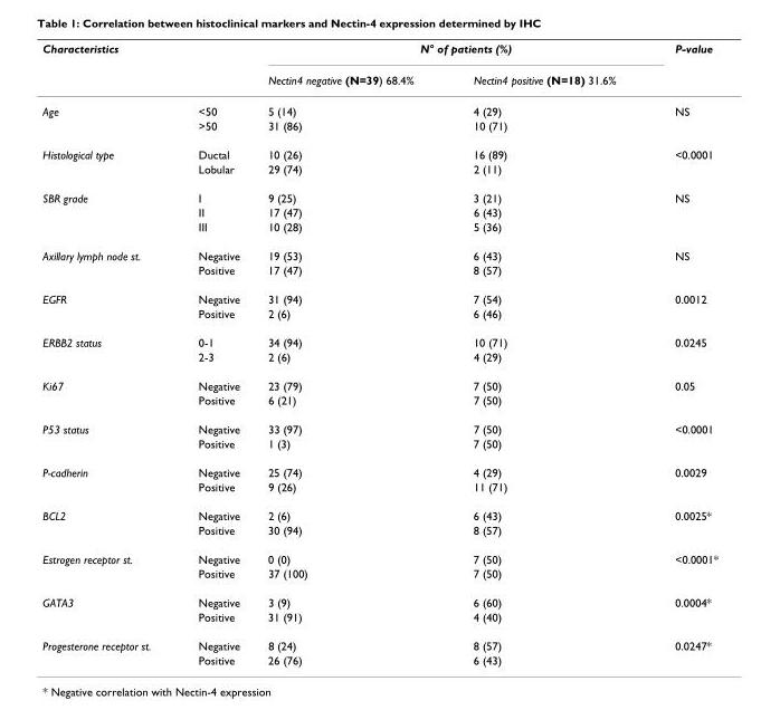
<table><thead><tr><td rowspan="2">Characteristics</td><td rowspan="2"></td><td colspan="2">N° of patients (%)</td><td rowspan="2">P-value</td></tr><tr><td>Nectin4 negative (N=39) 68.4%</td><td>Nectin4 positive (N=18) 31.6%</td></tr></thead><tbody><tr><td rowspan="2">Age</td><td>&lt;50</td><td>5 (14)</td><td>4 (29)</td><td>NS</td></tr><tr><td>&gt;50</td><td>31 (86)</td><td>10 (71)</td><td></td></tr><tr><td rowspan="2">Histological type</td><td>Ductal</td><td>10 (26)</td><td>16 (89)</td><td>&lt;0.0001</td></tr><tr><td>Lobular</td><td>29 (74)</td><td>2 (11)</td><td></td></tr><tr><td rowspan="3">SBR grade</td><td>I</td><td>9 (25)</td><td>3 (21)</td><td>NS</td></tr><tr><td>II</td><td>17 (47)</td><td>6 (43)</td><td></td></tr><tr><td>III</td><td>10 (28)</td><td>5 (36)</td><td></td></tr><tr><td rowspan="2">Axillary lymph node st.</td><td>Negative</td><td>19 (53)</td><td>6 (43)</td><td>NS</td></tr><tr><td>Positive</td><td>17 (47)</td><td>8 (57)</td><td></td></tr><tr><td rowspan="2">EGFR</td><td>Negative</td><td>31 (94)</td><td>7 (54)</td><td>0.0012</td></tr><tr><td>Positive</td><td>2 (6)</td><td>6 (46)</td><td></td></tr><tr><td rowspan="2">ERBB2 status</td><td>0-1</td><td>34 (94)</td><td>10 (71)</td><td>0.0245</td></tr><tr><td>2-3</td><td>2 (6)</td><td>4 (29)</td><td></td></tr><tr><td rowspan="2">Ki67</td><td>Negative</td><td>23 (79)</td><td>7 (50)</td><td>0.05</td></tr><tr><td>Positive</td><td>6 (21)</td><td>7 (50)</td><td></td></tr><tr><td rowspan="2">P53 status</td><td>Negative</td><td>33 (97)</td><td>7 (50)</td><td>&lt;0.0001</td></tr><tr><td>Positive</td><td>1 (3)</td><td>7 (50)</td><td></td></tr><tr><td rowspan="2">P-cadherin</td><td>Negative</td><td>25 (74)</td><td>4 (29)</td><td>0.0029</td></tr><tr><td>Positive</td><td>9 (26)</td><td>11 (71)</td><td></td></tr><tr><td rowspan="2">BCL2</td><td>Negative</td><td>2 (6)</td><td>6 (43)</td><td>0.0025*</td></tr><tr><td>Positive</td><td>30 (94)</td><td>8 (57)</td><td></td></tr><tr><td rowspan="2">Estrogen receptor st.</td><td>Negative</td><td>0 (0)</td><td>7 (50)</td><td>&lt;0.0001*</td></tr><tr><td>Positive</td><td>37 (100)</td><td>7 (50)</td><td></td></tr><tr><td rowspan="2">GATA3</td><td>Negative</td><td>3 (9)</td><td>6 (60)</td><td>0.0004*</td></tr><tr><td>Positive</td><td>31 (91)</td><td>4 (40)</td><td></td></tr><tr><td rowspan="2">Progesterone receptor st.</td><td>Negative</td><td>8 (24)</td><td>8 (57)</td><td>0.0247*</td></tr><tr><td>Positive</td><td>26 (76)</td><td>6 (43)</td><td></td></tr></tbody></table>